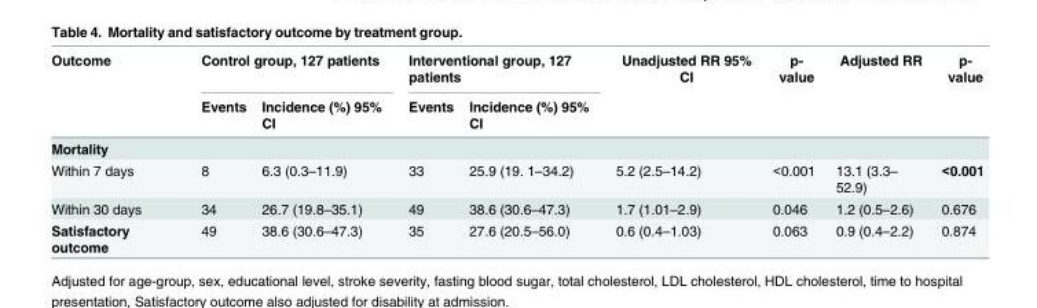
<table><thead><tr><td rowspan="2">Outcome</td><td colspan="2">Control group, 127 patients</td><td colspan="2">Interventional group, 127 patients</td><td rowspan="2">Unadjusted RR 95% CI</td><td rowspan="2">p- value</td><td rowspan="2">Adjusted RR</td><td rowspan="2">p- value</td></tr><tr><td>Events</td><td>Incidence (%) 95% CI</td><td>Events</td><td>Incidence (%) 95% CI</td></tr></thead><tbody><tr><td colspan="9">Mortality</td></tr><tr><td>Within 7 days</td><td>8</td><td>6.3 (0.3–11.9)</td><td>33</td><td>25.9 (19. 1–34.2)</td><td>5.2 (2.5–14.2)</td><td>&lt;0.001</td><td>13.1 (3.3– 52.9)</td><td>&lt;0.001</td></tr><tr><td>Within 30 days</td><td>34</td><td>26.7 (19.8–35.1)</td><td>49</td><td>38.6 (30.6–47.3)</td><td>1.7 (1.01–2.9)</td><td>0.046</td><td>1.2 (0.5–2.6)</td><td>0.676</td></tr><tr><td>Satisfactory outcome</td><td>49</td><td>38.6 (30.6–47.3)</td><td>35</td><td>27.6 (20.5–56.0)</td><td>0.6 (0.4–1.03)</td><td>0.063</td><td>0.9 (0.4–2.2)</td><td>0.874</td></tr></tbody></table>